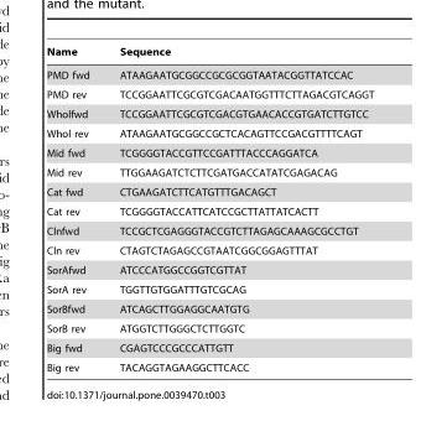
<table><thead><tr><td>Name</td><td>Sequence</td></tr></thead><tbody><tr><td>PMD fwd</td><td>ATAAGAATGCGGCCGCGCGGTAATACGGTTATCCAC</td></tr><tr><td>PMD rev</td><td>TCCGGAATTCGCGTCGACAATGGTTTCTTAGACGTCAGGT</td></tr><tr><td>Wholfwd</td><td>TCCGGAATTCGCGTCGACGTGAACACCGTGATCTTGTCC</td></tr><tr><td>Whol rev</td><td>ATAAGAATGCGGCCGCTCACAGTTCCGACGTTTTCAGT</td></tr><tr><td>Mid fwd</td><td>TCGGGGTACCGTTCCGATTTACCCAGGATCA</td></tr><tr><td>Mid rev</td><td>TTGGAAGATCTCTTCGATGACCATATCGAGACAG</td></tr><tr><td>Cat fwd</td><td>CTGAAGATCTTCATGTTTGACAGCT</td></tr><tr><td>Cat rev</td><td>TCGGGGTACCATTCATCCGCTTATTATCACTT</td></tr><tr><td>Clnfwd</td><td>TCCGCTCGAGGGTACCGTCTTAGAGCAAAGCGCCTGT</td></tr><tr><td>Cln rev</td><td>CTAGTCTAGAGCCGTAATCGGCGGAGTTTAT</td></tr><tr><td>SorAfwd</td><td>ATCCCATGGCCGGTCGTTAT</td></tr><tr><td>SorA rev</td><td>TGGTTGTGGATTTGTCGCAG</td></tr><tr><td>SorBfwd</td><td>ATCAGCTTGGAGGCAATGTG</td></tr><tr><td>SorB rev</td><td>ATGGTCTTGGGCTCTTGGTC</td></tr><tr><td>Big fwd</td><td>CGAGTCCCGCCCATTGTT</td></tr><tr><td>Big rev</td><td>TACAGGTAGAAGGCTTCACC</td></tr></tbody></table>